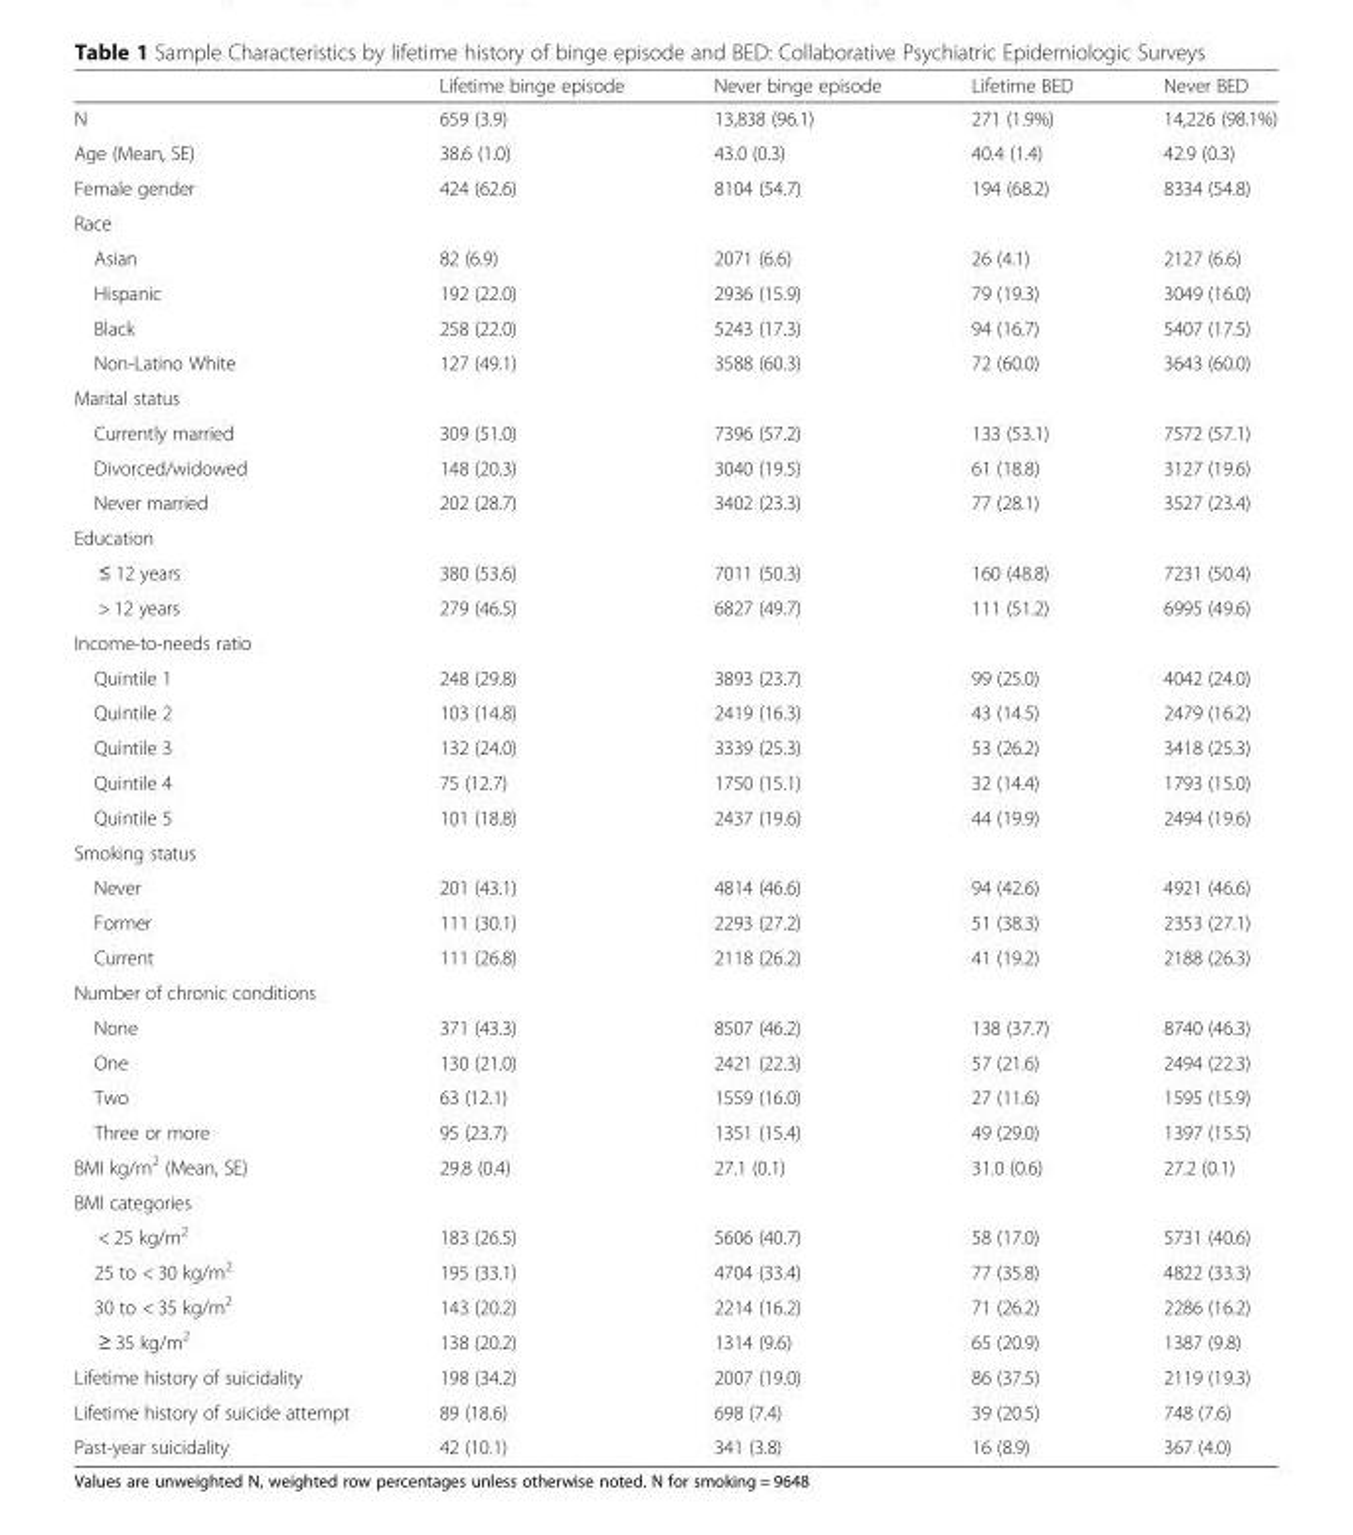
<table><thead><tr><td></td><td>Lifetime binge episode</td><td>Never binge episode</td><td>Lifetime BED</td><td>Never BED</td></tr></thead><tbody><tr><td>N</td><td>659 (3.9)</td><td>13,838 (96.1)</td><td>271 (1.9%)</td><td>14,226 (98.1%)</td></tr><tr><td>Age (Mean, SE)</td><td>38.6 (1.0)</td><td>43.0 (0.3)</td><td>40.4 (1.4)</td><td>42.9 (0.3)</td></tr><tr><td>Female gender</td><td>424 (62.6)</td><td>8104 (54.7)</td><td>194 (68.2)</td><td>8334 (54.8)</td></tr><tr><td colspan="5">Race</td></tr><tr><td>Asian</td><td>82 (6.9)</td><td>2071 (6.6)</td><td>26 (4.1)</td><td>2127 (6.6)</td></tr><tr><td>Hispanic</td><td>192 (22.0)</td><td>2936 (15.9)</td><td>79 (19.3)</td><td>3049 (16.0)</td></tr><tr><td>Black</td><td>258 (22.0)</td><td>5243 (17.3)</td><td>94 (16.7)</td><td>5407 (17.5)</td></tr><tr><td>Non-Latino White</td><td>127 (49.1)</td><td>3588 (60.3)</td><td>72 (60.0)</td><td>3643 (60.0)</td></tr><tr><td colspan="5">Marital status</td></tr><tr><td>Currently married</td><td>309 (51.0)</td><td>7396 (57.2)</td><td>133 (53.1)</td><td>7572 (57.1)</td></tr><tr><td>Divorced/widowed</td><td>148 (20.3)</td><td>3040 (19.5)</td><td>61 (18.8)</td><td>3127 (19.6)</td></tr><tr><td>Never married</td><td>202 (28.7)</td><td>3402 (23.3)</td><td>77 (28.1)</td><td>3527 (23.4)</td></tr><tr><td colspan="5">Education</td></tr><tr><td>≤ 12 years</td><td>380 (53.6)</td><td>7011 (50.3)</td><td>160 (48.8)</td><td>7231 (50.4)</td></tr><tr><td>&gt; 12 years</td><td>279 (46.5)</td><td>6827 (49.7)</td><td>111 (51.2)</td><td>6995 (49.6)</td></tr><tr><td colspan="5">Income-to-needs ratio</td></tr><tr><td>Quintile 1</td><td>248 (29.8)</td><td>3893 (23.7)</td><td>99 (25.0)</td><td>4042 (24.0)</td></tr><tr><td>Quintile 2</td><td>103 (14.8)</td><td>2419 (16.3)</td><td>43 (14.5)</td><td>2479 (16.2)</td></tr><tr><td>Quintile 3</td><td>132 (24.0)</td><td>3339 (25.3)</td><td>53 (26.2)</td><td>3418 (25.3)</td></tr><tr><td>Quintile 4</td><td>75 (12.7)</td><td>1750 (15.1)</td><td>32 (14.4)</td><td>1793 (15.0)</td></tr><tr><td>Quintile 5</td><td>101 (18.8)</td><td>2437 (19.6)</td><td>44 (19.9)</td><td>2494 (19.6)</td></tr><tr><td colspan="5">Smoking status</td></tr><tr><td>Never</td><td>201 (43.1)</td><td>4814 (46.6)</td><td>94 (42.6)</td><td>4921 (46.6)</td></tr><tr><td>Former</td><td>111 (30.1)</td><td>2293 (27.2)</td><td>51 (38.3)</td><td>2353 (27.1)</td></tr><tr><td>Current</td><td>111 (26.8)</td><td>2118 (26.2)</td><td>41 (19.2)</td><td>2188 (26.3)</td></tr><tr><td colspan="5">Number of chronic conditions</td></tr><tr><td>None</td><td>371 (43.3)</td><td>8507 (46.2)</td><td>138 (37.7)</td><td>8740 (46.3)</td></tr><tr><td>One</td><td>130 (21.0)</td><td>2421 (22.3)</td><td>57 (21.6)</td><td>2494 (22.3)</td></tr><tr><td>Two</td><td>63 (12.1)</td><td>1559 (16.0)</td><td>27 (11.6)</td><td>1595 (15.9)</td></tr><tr><td>Three or more</td><td>95 (23.7)</td><td>1351 (15.4)</td><td>49 (29.0)</td><td>1397 (15.5)</td></tr><tr><td>BMI kg/m<sup>2</sup> (Mean, SE)</td><td>29.8 (0.4)</td><td>27.1 (0.1)</td><td>31.0 (0.6)</td><td>27.2 (0.1)</td></tr><tr><td colspan="5">BMI categories</td></tr><tr><td>&lt; 25 kg/m<sup>2</sup></td><td>183 (26.5)</td><td>5606 (40.7)</td><td>58 (17.0)</td><td>5731 (40.6)</td></tr><tr><td>25 to &lt; 30 kg/m<sup>2</sup></td><td>195 (33.1)</td><td>4704 (33.4)</td><td>77 (35.8)</td><td>4822 (33.3)</td></tr><tr><td>30 to &lt; 35 kg/m<sup>2</sup></td><td>143 (20.2)</td><td>2214 (16.2)</td><td>71 (26.2)</td><td>2286 (16.2)</td></tr><tr><td>≥ 35 kg/m<sup>2</sup></td><td>138 (20.2)</td><td>1314 (9.6)</td><td>65 (20.9)</td><td>1387 (9.8)</td></tr><tr><td>Lifetime history of suicidality</td><td>198 (34.2)</td><td>2007 (19.0)</td><td>86 (37.5)</td><td>2119 (19.3)</td></tr><tr><td>Lifetime history of suicide attempt</td><td>89 (18.6)</td><td>698 (7.4)</td><td>39 (20.5)</td><td>748 (7.6)</td></tr><tr><td>Past-year suicidality</td><td>42 (10.1)</td><td>341 (3.8)</td><td>16 (8.9)</td><td>367 (4.0)</td></tr></tbody></table>